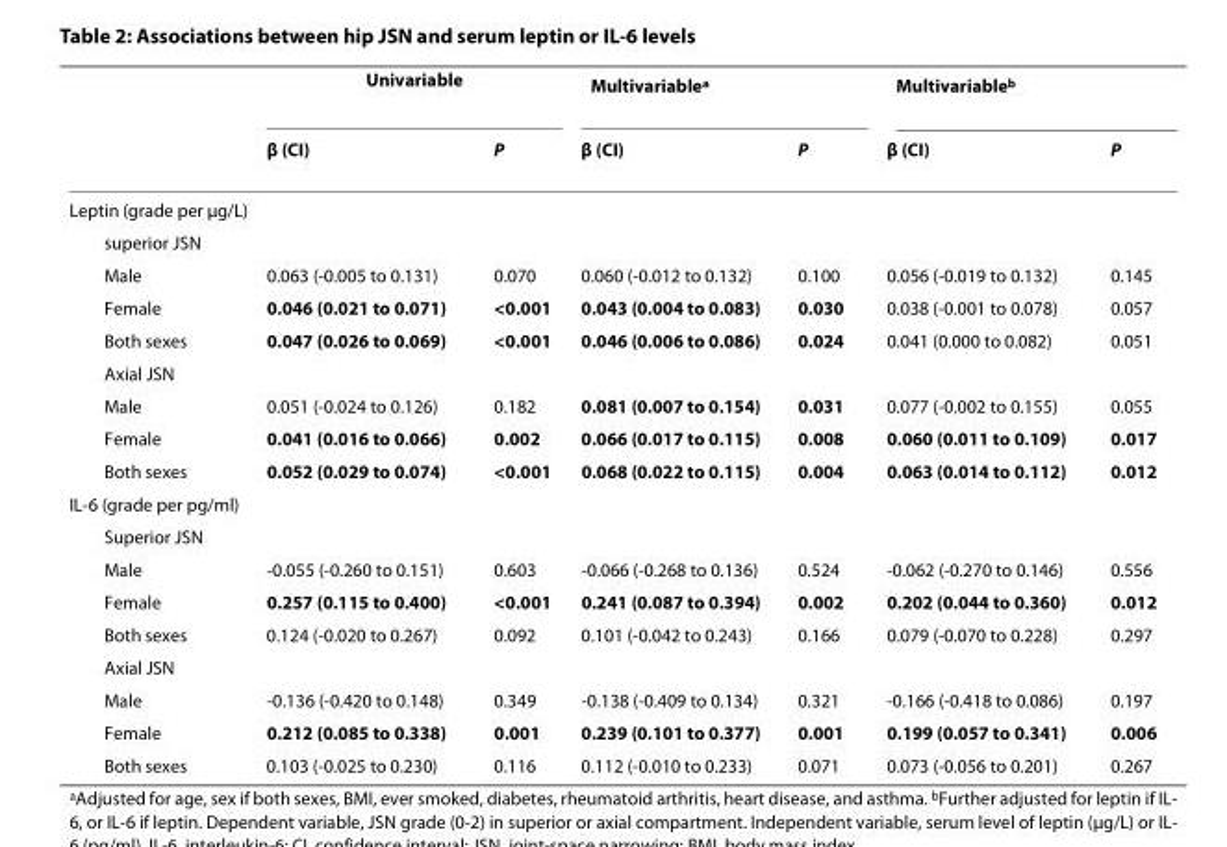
<table><thead><tr><td rowspan="2"></td><td colspan="2">Univariable</td><td colspan="2">Multivariable<sup>a</sup></td><td colspan="2">Multivariable<sup>b</sup></td></tr><tr><td>β (CI)</td><td>P</td><td>β (CI)</td><td>P</td><td>β (CI)</td><td>P</td></tr></thead><tbody><tr><td colspan="7">Leptin (grade per μg/L)</td></tr><tr><td colspan="7">superior JSN</td></tr><tr><td>Male</td><td>0.063 (-0.005 to 0.131)</td><td>0.070</td><td>0.060 (-0.012 to 0.132)</td><td>0.100</td><td>0.056 (-0.019 to 0.132)</td><td>0.145</td></tr><tr><td>Female</td><td>0.046 (0.021 to 0.071)</td><td>&lt;0.001</td><td>0.043 (0.004 to 0.083)</td><td>0.030</td><td>0.038 (-0.001 to 0.078)</td><td>0.057</td></tr><tr><td>Both sexes</td><td>0.047 (0.026 to 0.069)</td><td>&lt;0.001</td><td>0.046 (0.006 to 0.086)</td><td>0.024</td><td>0.041 (0.000 to 0.082)</td><td>0.051</td></tr><tr><td colspan="7">Axial JSN</td></tr><tr><td>Male</td><td>0.051 (-0.024 to 0.126)</td><td>0.182</td><td>0.081 (0.007 to 0.154)</td><td>0.031</td><td>0.077 (-0.002 to 0.155)</td><td>0.055</td></tr><tr><td>Female</td><td>0.041 (0.016 to 0.066)</td><td>0.002</td><td>0.066 (0.017 to 0.115)</td><td>0.008</td><td>0.060 (0.011 to 0.109)</td><td>0.017</td></tr><tr><td>Both sexes</td><td>0.052 (0.029 to 0.074)</td><td>&lt;0.001</td><td>0.068 (0.022 to 0.115)</td><td>0.004</td><td>0.063 (0.014 to 0.112)</td><td>0.012</td></tr><tr><td colspan="7">IL-6 (grade per pg/ml)</td></tr><tr><td colspan="7">Superior JSN</td></tr><tr><td>Male</td><td>-0.055 (-0.260 to 0.151)</td><td>0.603</td><td>-0.066 (-0.268 to 0.136)</td><td>0.524</td><td>-0.062 (-0.270 to 0.146)</td><td>0.556</td></tr><tr><td>Female</td><td>0.257 (0.115 to 0.400)</td><td>&lt;0.001</td><td>0.241 (0.087 to 0.394)</td><td>0.002</td><td>0.202 (0.044 to 0.360)</td><td>0.012</td></tr><tr><td>Both sexes</td><td>0.124 (-0.020 to 0.267)</td><td>0.092</td><td>0.101 (-0.042 to 0.243)</td><td>0.166</td><td>0.079 (-0.070 to 0.228)</td><td>0.297</td></tr><tr><td colspan="7">Axial JSN</td></tr><tr><td>Male</td><td>-0.136 (-0.420 to 0.148)</td><td>0.349</td><td>-0.138 (-0.409 to 0.134)</td><td>0.321</td><td>-0.166 (-0.418 to 0.086)</td><td>0.197</td></tr><tr><td>Female</td><td>0.212 (0.085 to 0.338)</td><td>0.001</td><td>0.239 (0.101 to 0.377)</td><td>0.001</td><td>0.199 (0.057 to 0.341)</td><td>0.006</td></tr><tr><td>Both sexes</td><td>0.103 (-0.025 to 0.230)</td><td>0.116</td><td>0.112 (-0.010 to 0.233)</td><td>0.071</td><td>0.073 (-0.056 to 0.201)</td><td>0.267</td></tr></tbody></table>